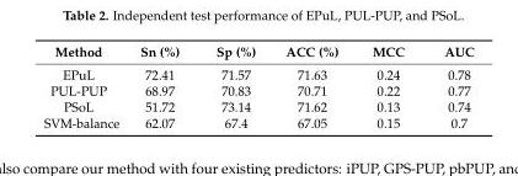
<table><thead><tr><td>Method</td><td>Sn (%)</td><td>Sp (%)</td><td>ACC (%)</td><td>MCC</td><td>AUC</td></tr></thead><tbody><tr><td>EPuL</td><td>72.41</td><td>71.57</td><td>71.63</td><td>0.24</td><td>0.78</td></tr><tr><td>PUL-PUP</td><td>68.97</td><td>70.83</td><td>70.71</td><td>0.22</td><td>0.77</td></tr><tr><td>PSoL</td><td>51.72</td><td>73.14</td><td>71.62</td><td>0.13</td><td>0.74</td></tr><tr><td>SVM-balance</td><td>62.07</td><td>67.4</td><td>67.05</td><td>0.15</td><td>0.7</td></tr></tbody></table>